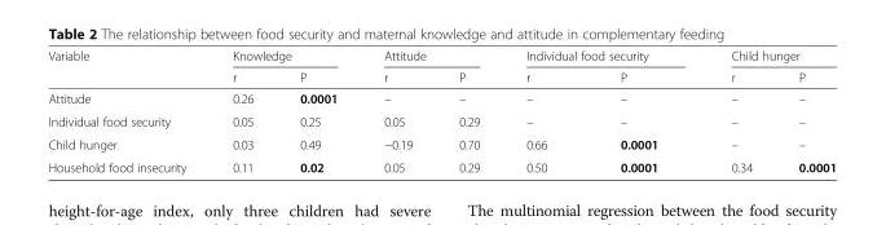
<table><thead><tr><td rowspan="2">Variable</td><td colspan="2">Knowledge</td><td colspan="2">Attitude</td><td colspan="2">Individual food security</td><td colspan="2">Child hunger</td></tr><tr><td>r</td><td>P</td><td>r</td><td>P</td><td>r</td><td>P</td><td>r</td><td>P</td></tr></thead><tbody><tr><td>Attitude</td><td>0.26</td><td>0.0001</td><td>–</td><td>–</td><td>–</td><td>–</td><td>–</td><td>–</td></tr><tr><td>Individual food security</td><td>0.05</td><td>0.25</td><td>0.05</td><td>0.29</td><td>–</td><td>–</td><td>–</td><td>–</td></tr><tr><td>Child hunger</td><td>0.03</td><td>0.49</td><td>−0.19</td><td>0.70</td><td>0.66</td><td>0.0001</td><td>–</td><td>–</td></tr><tr><td>Household food insecurity</td><td>0.11</td><td>0.02</td><td>0.05</td><td>0.29</td><td>0.50</td><td>0.0001</td><td>0.34</td><td>0.0001</td></tr></tbody></table>